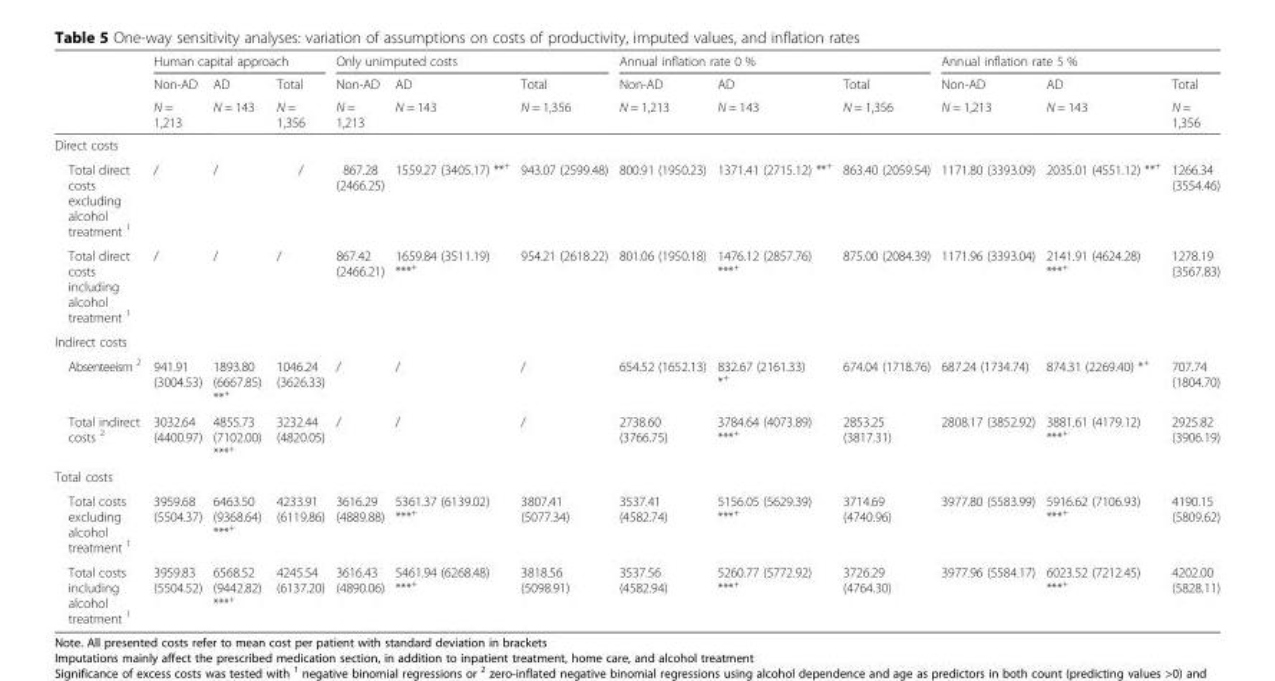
<table><thead><tr><td rowspan="3"></td><td colspan="3">Human capital approach</td><td colspan="3">Only unimputed costs</td><td colspan="3">Annual inflation rate 0 %</td><td colspan="3">Annual inflation rate 5 %</td></tr><tr><td rowspan="2">Non-AD N = 1,213</td><td rowspan="2">AD N = 143</td><td rowspan="2">Total N = 1,356</td><td rowspan="2">Non-AD N = 1,213</td><td rowspan="2">AD N = 143</td><td rowspan="2">Total N = 1,356</td><td rowspan="2">Non-AD N = 1,213</td><td rowspan="2">AD N = 143</td><td rowspan="2">Total N = 1,356</td><td rowspan="2">Non-AD N = 1,213</td><td rowspan="2">AD N = 143</td><td rowspan="2">Total N = 1,356</td></tr><tr></tr></thead><tbody><tr><td colspan="13">Direct costs</td></tr><tr><td>Total direct costs excluding alcohol treatment <sup>1</sup></td><td>/</td><td>/</td><td>/</td><td>867.28 (2466.25)</td><td>1559.27 (3405.17) **<sup>+</sup></td><td>943.07 (2599.48)</td><td>800.91 (1950.23)</td><td>1371.41 (2715.12) **<sup>+</sup></td><td>863.40 (2059.54)</td><td>1171.80 (3393.09)</td><td>2035.01 (4551.12) **<sup>+</sup></td><td>1266.34 (3554.46)</td></tr><tr><td>Total direct costs including alcohol treatment <sup>1</sup></td><td>/</td><td>/</td><td>/</td><td>867.42 (2466.21)</td><td>1659.84 (3511.19) ***<sup>+</sup></td><td>954.21 (2618.22)</td><td>801.06 (1950.18)</td><td>1476.12 (2857.76) ***<sup>+</sup></td><td>875.00 (2084.39)</td><td>1171.96 (3393.04)</td><td>2141.91 (4624.28) ***<sup>+</sup></td><td>1278.19 (3567.83)</td></tr><tr><td colspan="13">Indirect costs</td></tr><tr><td>Absenteeism <sup>2</sup></td><td>941.91 (3004.53)</td><td>1893.80 (6667.85) **<sup>+</sup></td><td>1046.24 (3626.33)</td><td>/</td><td>/</td><td>/</td><td>654.52 (1652.13)</td><td>832.67 (2161.33) *<sup>+</sup></td><td>674.04 (1718.76)</td><td>687.24 (1734.74)</td><td>874.31 (2269.40) *<sup>+</sup></td><td>707.74 (1804.70)</td></tr><tr><td>Total indirect costs <sup>2</sup></td><td>3032.64 (4400.97)</td><td>4855.73 (7102.00) ***<sup>+</sup></td><td>3232.44 (4820.05)</td><td>/</td><td>/</td><td>/</td><td>2738.60 (3766.75)</td><td>3784.64 (4073.89) ***<sup>+</sup></td><td>2853.25 (3817.31)</td><td>2808.17 (3852.92)</td><td>3881.61 (4179.12) ***<sup>+</sup></td><td>2925.82 (3906.19)</td></tr><tr><td colspan="13">Total costs</td></tr><tr><td>Total costs excluding alcohol treatment <sup>1</sup></td><td>3959.68 (5504.37)</td><td>6463.50 (9368.64) ***<sup>+</sup></td><td>4233.91 (6119.86)</td><td>3616.29 (4889.88)</td><td>5361.37 (6139.02) ***<sup>+</sup></td><td>3807.41 (5077.34)</td><td>3537.41 (4582.74)</td><td>5156.05 (5629.39) ***<sup>+</sup></td><td>3714.69 (4740.96)</td><td>3977.80 (5583.99)</td><td>5916.62 (7106.93) ***<sup>+</sup></td><td>4190.15 (5809.62)</td></tr><tr><td>Total costs including alcohol treatment <sup>1</sup></td><td>3959.83 (5504.52)</td><td>6568.52 (9442.82) ***<sup>+</sup></td><td>4245.54 (6137.20)</td><td>3616.43 (4890.06)</td><td>5461.94 (6268.48) ***<sup>+</sup></td><td>3818.56 (5098.91)</td><td>3537.56 (4582.94)</td><td>5260.77 (5772.92) ***<sup>+</sup></td><td>3726.29 (4764.30)</td><td>3977.96 (5584.17)</td><td>6023.52 (7212.45) ***<sup>+</sup></td><td>4202.00 (5828.11)</td></tr></tbody></table>